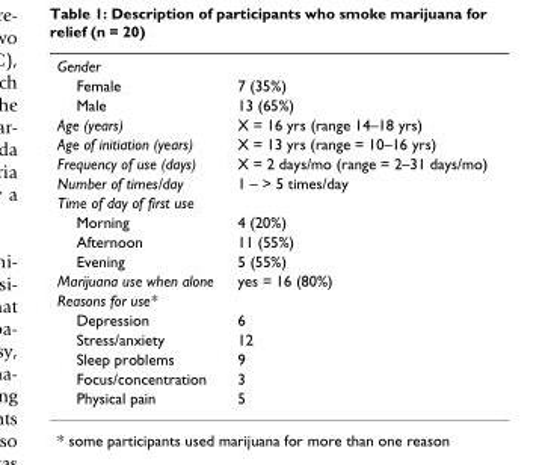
<table><tbody><tr><td colspan="2">Gender</td></tr><tr><td>Female</td><td>7 (35%)</td></tr><tr><td>Male</td><td>13 (65%)</td></tr><tr><td>Age (years)</td><td>X = 16 yrs (range 14–18 yrs)</td></tr><tr><td>Age of initiation (years)</td><td>X = 13 yrs (range = 10–16 yrs)</td></tr><tr><td>Frequency of use (days)</td><td>X = 2 days/mo (range = 2–31 days/mo)</td></tr><tr><td>Number of times/day</td><td>1 – &gt; 5 times/day</td></tr><tr><td colspan="2">Time of day of first use</td></tr><tr><td>Morning</td><td>4 (20%)</td></tr><tr><td>Afternoon</td><td>11 (55%)</td></tr><tr><td>Evening</td><td>5 (55%)</td></tr><tr><td>Marijuana use when alone</td><td>yes = 16 (80%)</td></tr><tr><td colspan="2">Reasons for use*</td></tr><tr><td>Depression</td><td>6</td></tr><tr><td>Stress/anxiety</td><td>12</td></tr><tr><td>Sleep problems</td><td>9</td></tr><tr><td>Focus/concentration</td><td>3</td></tr><tr><td>Physical pain</td><td>5</td></tr></tbody></table>